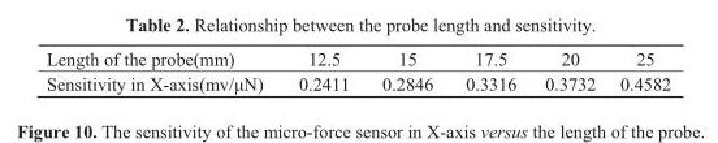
<table><tbody><tr><td>Length of the probe(mm)</td><td>12.5</td><td>15</td><td>17.5</td><td>20</td><td>25</td></tr><tr><td>Sensitivity in X-axis(mv/μN)</td><td>0.2411</td><td>0.2846</td><td>0.3316</td><td>0.3732</td><td>0.4582</td></tr></tbody></table>